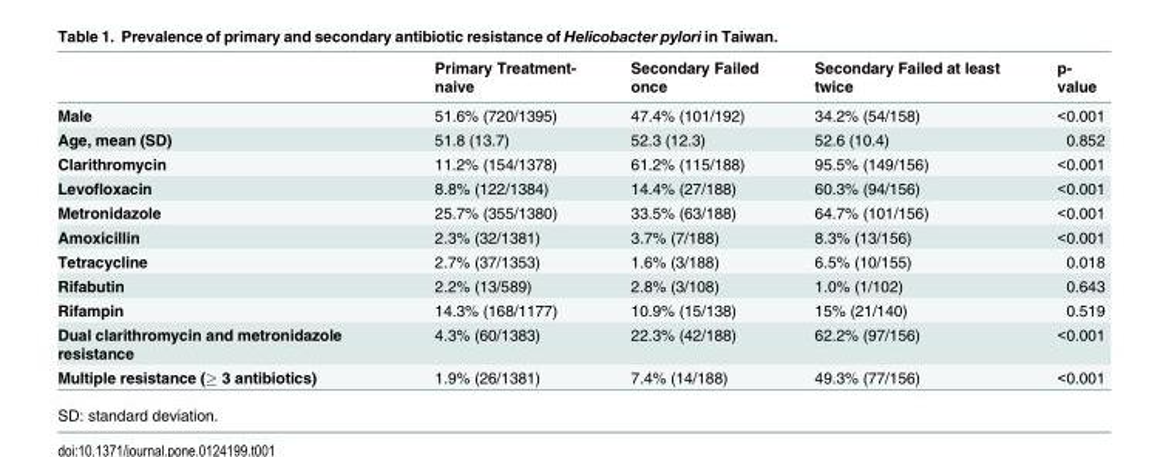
<table><thead><tr><td></td><td>Primary Treatment- naive</td><td>Secondary Failed once</td><td>Secondary Failed at least twice</td><td>p- value</td></tr></thead><tbody><tr><td>Male</td><td>51.6% (720/1395)</td><td>47.4% (101/192)</td><td>34.2% (54/158)</td><td>&lt;0.001</td></tr><tr><td>Age, mean (SD)</td><td>51.8 (13.7)</td><td>52.3 (12.3)</td><td>52.6 (10.4)</td><td>0.852</td></tr><tr><td>Clarithromycin</td><td>11.2% (154/1378)</td><td>61.2% (115/188)</td><td>95.5% (149/156)</td><td>&lt;0.001</td></tr><tr><td>Levofloxacin</td><td>8.8% (122/1384)</td><td>14.4% (27/188)</td><td>60.3% (94/156)</td><td>&lt;0.001</td></tr><tr><td>Metronidazole</td><td>25.7% (355/1380)</td><td>33.5% (63/188)</td><td>64.7% (101/156)</td><td>&lt;0.001</td></tr><tr><td>Amoxicillin</td><td>2.3% (32/1381)</td><td>3.7% (7/188)</td><td>8.3% (13/156)</td><td>&lt;0.001</td></tr><tr><td>Tetracycline</td><td>2.7% (37/1353)</td><td>1.6% (3/188)</td><td>6.5% (10/155)</td><td>0.018</td></tr><tr><td>Rifabutin</td><td>2.2% (13/589)</td><td>2.8% (3/108)</td><td>1.0% (1/102)</td><td>0.643</td></tr><tr><td>Rifampin</td><td>14.3% (168/1177)</td><td>10.9% (15/138)</td><td>15% (21/140)</td><td>0.519</td></tr><tr><td>Dual clarithromycin and metronidazole resistance</td><td>4.3% (60/1383)</td><td>22.3% (42/188)</td><td>62.2% (97/156)</td><td>&lt;0.001</td></tr><tr><td>Multiple resistance (≥ 3 antibiotics)</td><td>1.9% (26/1381)</td><td>7.4% (14/188)</td><td>49.3% (77/156)</td><td>&lt;0.001</td></tr></tbody></table>